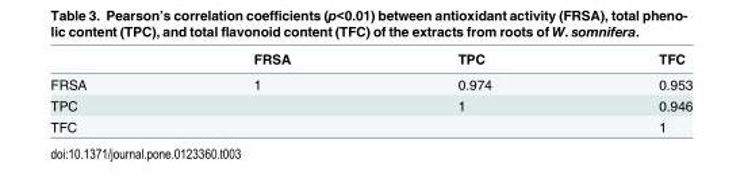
<table><thead><tr><td></td><td>FRSA</td><td>TPC</td><td>TFC</td></tr></thead><tbody><tr><td>FRSA</td><td>1</td><td>0.974</td><td>0.953</td></tr><tr><td>TPC</td><td></td><td>1</td><td>0.946</td></tr><tr><td>TFC</td><td></td><td></td><td>1</td></tr></tbody></table>